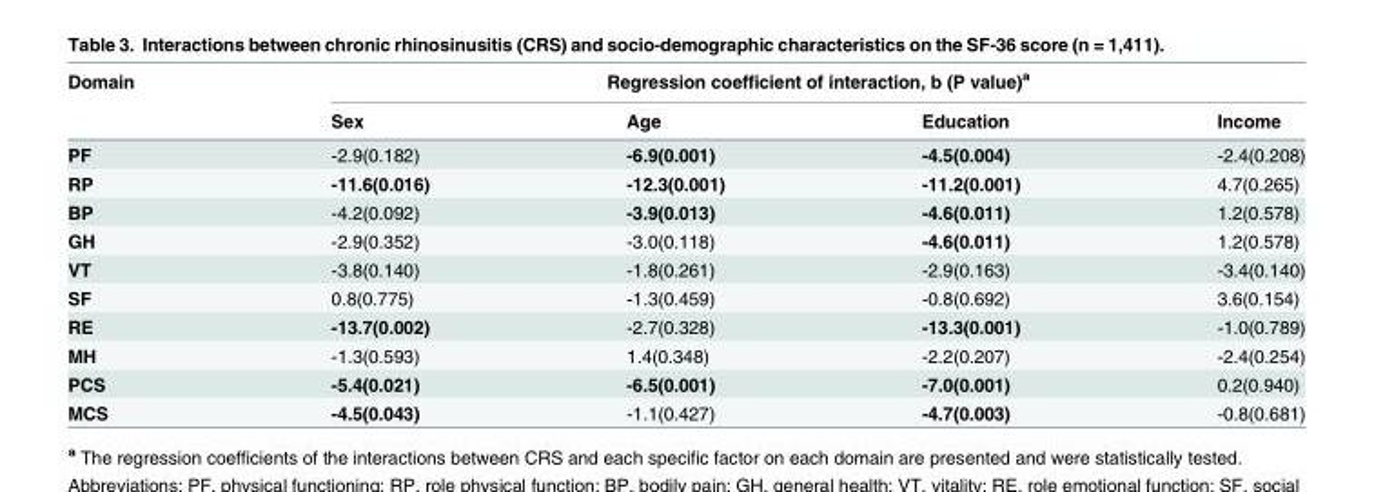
<table><thead><tr><td rowspan="2">Domain</td><td colspan="4">Regression coefficient of interaction, b (P value)<sup>a</sup></td></tr><tr><td>Sex</td><td>Age</td><td>Education</td><td>Income</td></tr></thead><tbody><tr><td>PF</td><td>-2.9(0.182)</td><td>-6.9(0.001)</td><td>-4.5(0.004)</td><td>-2.4(0.208)</td></tr><tr><td>RP</td><td>-11.6(0.016)</td><td>-12.3(0.001)</td><td>-11.2(0.001)</td><td>4.7(0.265)</td></tr><tr><td>BP</td><td>-4.2(0.092)</td><td>-3.9(0.013)</td><td>-4.6(0.011)</td><td>1.2(0.578)</td></tr><tr><td>GH</td><td>-2.9(0.352)</td><td>-3.0(0.118)</td><td>-4.6(0.011)</td><td>1.2(0.578)</td></tr><tr><td>VT</td><td>-3.8(0.140)</td><td>-1.8(0.261)</td><td>-2.9(0.163)</td><td>-3.4(0.140)</td></tr><tr><td>SF</td><td>0.8(0.775)</td><td>-1.3(0.459)</td><td>-0.8(0.692)</td><td>3.6(0.154)</td></tr><tr><td>RE</td><td>-13.7(0.002)</td><td>-2.7(0.328)</td><td>-13.3(0.001)</td><td>-1.0(0.789)</td></tr><tr><td>MH</td><td>-1.3(0.593)</td><td>1.4(0.348)</td><td>-2.2(0.207)</td><td>-2.4(0.254)</td></tr><tr><td>PCS</td><td>-5.4(0.021)</td><td>-6.5(0.001)</td><td>-7.0(0.001)</td><td>0.2(0.940)</td></tr><tr><td>MCS</td><td>-4.5(0.043)</td><td>-1.1(0.427)</td><td>-4.7(0.003)</td><td>-0.8(0.681)</td></tr></tbody></table>